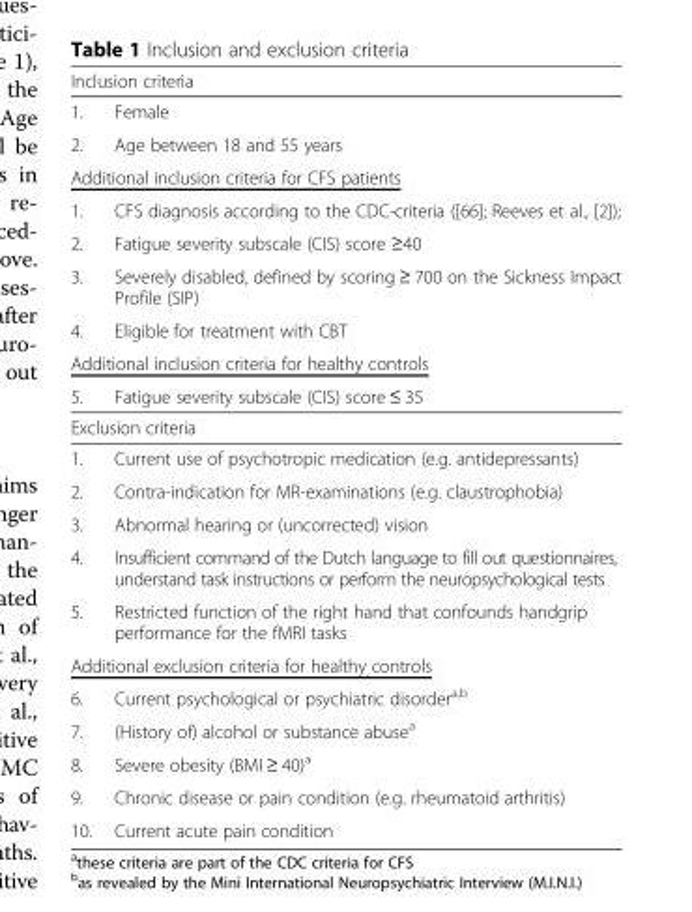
<table><thead><tr><td colspan="2">Inclusion criteria</td></tr><tr><td>1.</td><td>Female</td></tr></thead><tbody><tr><td>2.</td><td>Age between 18 and 55 years</td></tr><tr><td colspan="2">Additional inclusion criteria for CFS patients</td></tr><tr><td>1.</td><td>CFS diagnosis according to the CDC-criteria ([66]; Reeves et al., [2]);</td></tr><tr><td>2.</td><td>Fatigue severity subscale (CIS) score ≥40</td></tr><tr><td>3.</td><td>Severely disabled, defined by scoring ≥ 700 on the Sickness Impact Profile (SIP)</td></tr><tr><td>4.</td><td>Eligible for treatment with CBT</td></tr><tr><td colspan="2">Additional inclusion criteria for healthy controls</td></tr><tr><td>5.</td><td>Fatigue severity subscale (CIS) score ≤ 35</td></tr><tr><td colspan="2">Exclusion criteria</td></tr><tr><td>1.</td><td>Current use of psychotropic medication (e.g. antidepressants)</td></tr><tr><td>2.</td><td>Contra-indication for MR-examinations (e.g. claustrophobia)</td></tr><tr><td>3.</td><td>Abnormal hearing or (uncorrected) vision</td></tr><tr><td>4.</td><td>Insufficient command of the Dutch language to fill out questionnaires, understand task instructions or perform the neuropsychological tests</td></tr><tr><td>5.</td><td>Restricted function of the right hand that confounds handgrip performance for the fMRI tasks</td></tr><tr><td colspan="2">Additional exclusion criteria for healthy controls</td></tr><tr><td>6.</td><td>Current psychological or psychiatric disorder<sup>a,b</sup></td></tr><tr><td>7.</td><td>(History of) alcohol or substance abuse<sup>a</sup></td></tr><tr><td>8.</td><td>Severe obesity (BMI ≥ 40)<sup>a</sup></td></tr><tr><td>9.</td><td>Chronic disease or pain condition (e.g. rheumatoid arthritis)</td></tr><tr><td>10.</td><td>Current acute pain condition</td></tr></tbody></table>